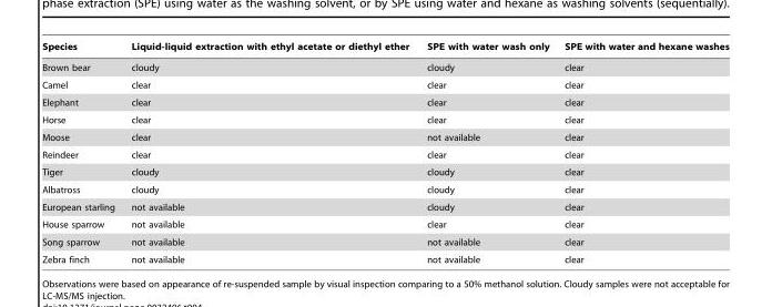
<table><thead><tr><td>Species</td><td>Liquid-liquid extraction with ethyl acetate or diethyl ether</td><td>SPE with water wash only</td><td>SPE with water and hexane washes</td></tr></thead><tbody><tr><td>Brown bear</td><td>cloudy</td><td>cloudy</td><td>clear</td></tr><tr><td>Camel</td><td>clear</td><td>clear</td><td>clear</td></tr><tr><td>Elephant</td><td>clear</td><td>clear</td><td>clear</td></tr><tr><td>Horse</td><td>clear</td><td>clear</td><td>clear</td></tr><tr><td>Moose</td><td>clear</td><td>not available</td><td>clear</td></tr><tr><td>Reindeer</td><td>clear</td><td>clear</td><td>clear</td></tr><tr><td>Tiger</td><td>cloudy</td><td>cloudy</td><td>clear</td></tr><tr><td>Albatross</td><td>cloudy</td><td>cloudy</td><td>clear</td></tr><tr><td>European starling</td><td>not available</td><td>cloudy</td><td>clear</td></tr><tr><td>House sparrow</td><td>not available</td><td>clear</td><td>clear</td></tr><tr><td>Song sparrow</td><td>not available</td><td>not available</td><td>clear</td></tr><tr><td>Zebra finch</td><td>not available</td><td>not available</td><td>clear</td></tr></tbody></table>